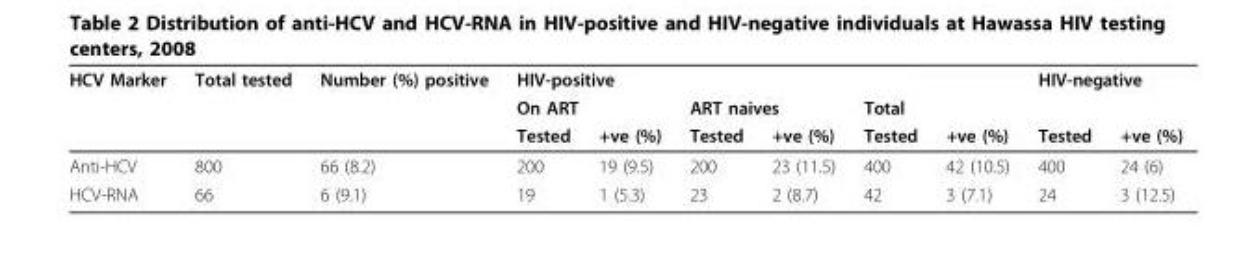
<table><thead><tr><td rowspan="3">HCV Marker</td><td rowspan="3">Total tested</td><td rowspan="3">Number (%) positive</td><td colspan="6">HIV-positive</td><td colspan="2">HIV-negative</td></tr><tr><td colspan="2">On ART</td><td colspan="2">ART naives</td><td colspan="2">Total</td><td rowspan="2">Tested</td><td rowspan="2">+ve (%)</td></tr><tr><td>Tested</td><td>+ve (%)</td><td>Tested</td><td>+ve (%)</td><td>Tested</td><td>+ve (%)</td></tr></thead><tbody><tr><td>Anti-HCV</td><td>800</td><td>66 (8.2)</td><td>200</td><td>19 (9.5)</td><td>200</td><td>23 (11.5)</td><td>400</td><td>42 (10.5)</td><td>400</td><td>24 (6)</td></tr><tr><td>HCV-RNA</td><td>66</td><td>6 (9.1)</td><td>19</td><td>1 (5.3)</td><td>23</td><td>2 (8.7)</td><td>42</td><td>3 (7.1)</td><td>24</td><td>3 (12.5)</td></tr></tbody></table>